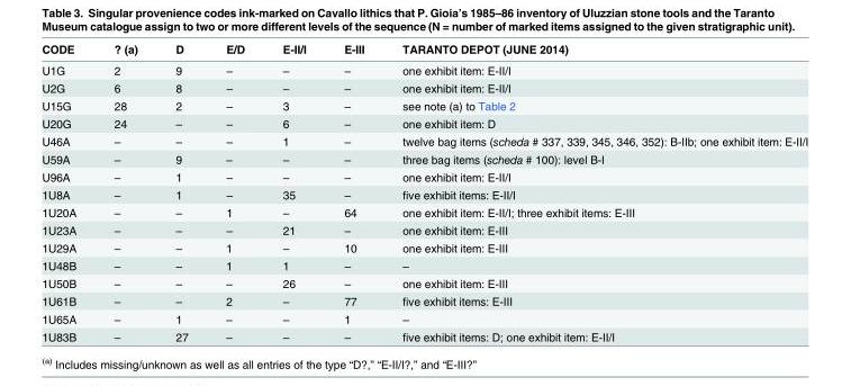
<table><thead><tr><td>CODE</td><td>? (a)</td><td>D</td><td>E/D</td><td>E-II/I</td><td>E-III</td><td>TARANTO DEPOT (JUNE 2014)</td></tr></thead><tbody><tr><td>U1G</td><td>2</td><td>9</td><td>–</td><td>–</td><td>–</td><td>one exhibit item: E-II/I</td></tr><tr><td>U2G</td><td>6</td><td>8</td><td>–</td><td>–</td><td>–</td><td>one exhibit item: E-II/I</td></tr><tr><td>U15G</td><td>28</td><td>2</td><td>–</td><td>3</td><td>–</td><td>see note (a) to Table 2</td></tr><tr><td>U20G</td><td>24</td><td>–</td><td>–</td><td>6</td><td>–</td><td>one exhibit item: D</td></tr><tr><td>U46A</td><td>–</td><td>–</td><td>–</td><td>1</td><td>–</td><td>twelve bag items (scheda # 337, 339, 345, 346, 352): B-IIb; one exhibit item: E-II/I</td></tr><tr><td>U59A</td><td>–</td><td>9</td><td>–</td><td>–</td><td>–</td><td>three bag items (scheda # 100): level B-I</td></tr><tr><td>U96A</td><td>–</td><td>1</td><td>–</td><td>–</td><td>–</td><td>one exhibit item: E-II/I</td></tr><tr><td>1U8A</td><td>–</td><td>1</td><td>–</td><td>35</td><td>–</td><td>five exhibit items: E-II/I</td></tr><tr><td>1U20A</td><td>–</td><td>–</td><td>1</td><td>–</td><td>64</td><td>one exhibit item: E-II/I; three exhibit items: E-III</td></tr><tr><td>1U23A</td><td>–</td><td>–</td><td>–</td><td>21</td><td>–</td><td>one exhibit item: E-III</td></tr><tr><td>1U29A</td><td>–</td><td>–</td><td>1</td><td>–</td><td>10</td><td>one exhibit item: E-III</td></tr><tr><td>1U48B</td><td>–</td><td>–</td><td>1</td><td>1</td><td>–</td><td>–</td></tr><tr><td>1U50B</td><td>–</td><td>–</td><td>–</td><td>26</td><td>–</td><td>one exhibit item: E-III</td></tr><tr><td>1U61B</td><td>–</td><td>–</td><td>2</td><td>–</td><td>77</td><td>five exhibit items: E-III</td></tr><tr><td>1U65A</td><td>–</td><td>1</td><td>–</td><td>–</td><td>1</td><td>–</td></tr><tr><td>1U83B</td><td>–</td><td>27</td><td>–</td><td>–</td><td>–</td><td>five exhibit items: D; one exhibit item: E-II/I</td></tr></tbody></table>